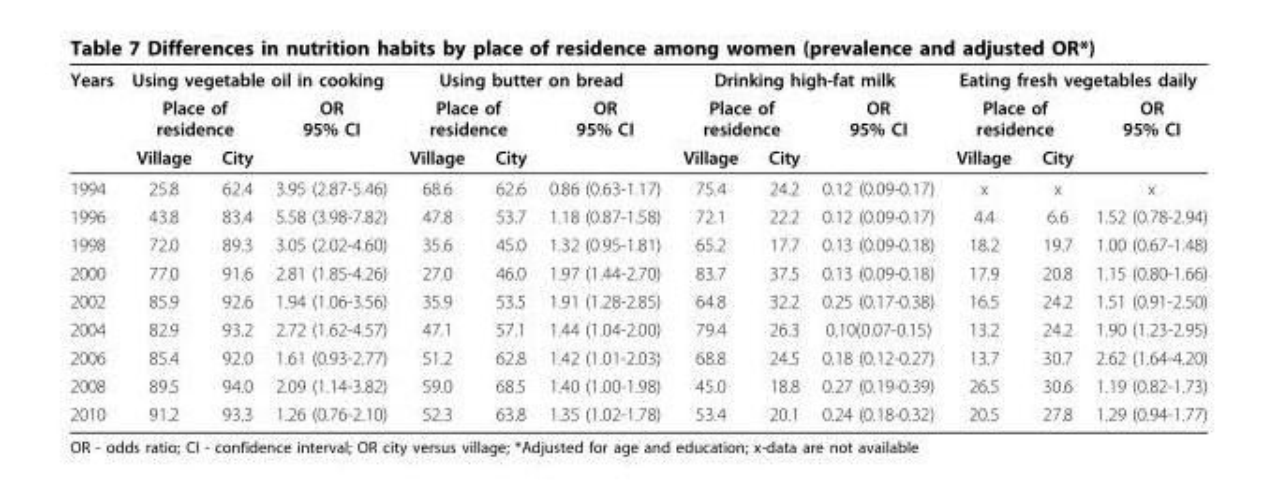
<table><thead><tr><td rowspan="3">Years</td><td colspan="3">Using vegetable oil in cooking</td><td colspan="3">Using butter on bread</td><td colspan="3">Drinking high-fat milk</td><td colspan="3">Eating fresh vegetables daily</td></tr><tr><td colspan="2">Place of residence</td><td rowspan="2">OR 95% CI</td><td colspan="2">Place of residence</td><td rowspan="2">OR 95% CI</td><td colspan="2">Place of residence</td><td rowspan="2">OR 95% CI</td><td colspan="2">Place of residence</td><td rowspan="2">OR 95% CI</td></tr><tr><td>Village</td><td>City</td><td>Village</td><td>City</td><td>Village</td><td>City</td><td>Village</td><td>City</td></tr></thead><tbody><tr><td>1994</td><td>25.8</td><td>62.4</td><td>3.95 (2.87-5.46)</td><td>68.6</td><td>62.6</td><td>0.86 (0.63-1.17)</td><td>75.4</td><td>24.2</td><td>0.12 (0.09-0.17)</td><td>x</td><td>x</td><td>x</td></tr><tr><td>1996</td><td>43.8</td><td>83.4</td><td>5.58 (3.98-7.82)</td><td>47.8</td><td>53.7</td><td>1.18 (0.87-1.58)</td><td>72.1</td><td>22.2</td><td>0.12 (0.09-0.17)</td><td>4.4</td><td>6.6</td><td>1.52 (0.78-2.94)</td></tr><tr><td>1998</td><td>72.0</td><td>89.3</td><td>3.05 (2.02-4.60)</td><td>35.6</td><td>45.0</td><td>1.32 (0.95-1.81)</td><td>65.2</td><td>17.7</td><td>0.13 (0.09-0.18)</td><td>18.2</td><td>19.7</td><td>1.00 (0.67-1.48)</td></tr><tr><td>2000</td><td>77.0</td><td>91.6</td><td>2.81 (1.85-4.26)</td><td>27.0</td><td>46.0</td><td>1.97 (1.44-2.70)</td><td>83.7</td><td>37.5</td><td>0.13 (0.09-0.18)</td><td>17.9</td><td>20.8</td><td>1.15 (0.80-1.66)</td></tr><tr><td>2002</td><td>85.9</td><td>92.6</td><td>1.94 (1.06-3.56)</td><td>35.9</td><td>53.5</td><td>1.91 (1.28-2.85)</td><td>64.8</td><td>32.2</td><td>0.25 (0.17-0.38)</td><td>16.5</td><td>24.2</td><td>1.51 (0.91-2.50)</td></tr><tr><td>2004</td><td>82.9</td><td>93.2</td><td>2.72 (1.62-4.57)</td><td>47.1</td><td>57.1</td><td>1.44 (1.04-2.00)</td><td>79.4</td><td>26.3</td><td>0.10(0.07-0.15)</td><td>13.2</td><td>24.2</td><td>1.90 (1.23-2.95)</td></tr><tr><td>2006</td><td>85.4</td><td>92.0</td><td>1.61 (0.93-2.77)</td><td>51.2</td><td>62.8</td><td>1.42 (1.01-2.03)</td><td>68.8</td><td>24.5</td><td>0.18 (0.12-0.27)</td><td>13.7</td><td>30.7</td><td>2.62 (1.64-4.20)</td></tr><tr><td>2008</td><td>89.5</td><td>94.0</td><td>2.09 (1.14-3.82)</td><td>59.0</td><td>68.5</td><td>1.40 (1.00-1.98)</td><td>45.0</td><td>18.8</td><td>0.27 (0.19-0.39)</td><td>26.5</td><td>30.6</td><td>1.19 (0.82-1.73)</td></tr><tr><td>2010</td><td>91.2</td><td>93.3</td><td>1.26 (0.76-2.10)</td><td>52.3</td><td>63.8</td><td>1.35 (1.02-1.78)</td><td>53.4</td><td>20.1</td><td>0.24 (0.18-0.32)</td><td>20.5</td><td>27.8</td><td>1.29 (0.94-1.77)</td></tr></tbody></table>